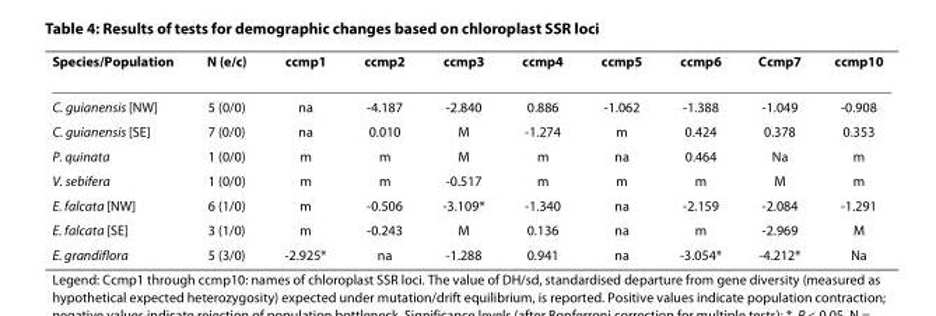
<table><thead><tr><td>Species/Population</td><td>N (e/c)</td><td>ccmp1</td><td>ccmp2</td><td>ccmp3</td><td>ccmp4</td><td>ccmp5</td><td>ccmp6</td><td>Ccmp7</td><td>ccmp10</td></tr></thead><tbody><tr><td>C. guianensis [NW]</td><td>5 (0/0)</td><td>na</td><td>-4.187</td><td>-2.840</td><td>0.886</td><td>-1.062</td><td>-1.388</td><td>-1.049</td><td>-0.908</td></tr><tr><td>C. guianensis [SE]</td><td>7 (0/0)</td><td>na</td><td>0.010</td><td>M</td><td>-1.274</td><td>m</td><td>0.424</td><td>0.378</td><td>0.353</td></tr><tr><td>P. quinata</td><td>1 (0/0)</td><td>m</td><td>m</td><td>M</td><td>m</td><td>na</td><td>0.464</td><td>Na</td><td>m</td></tr><tr><td>V. sebifera</td><td>1 (0/0)</td><td>m</td><td>m</td><td>-0.517</td><td>m</td><td>m</td><td>m</td><td>M</td><td>m</td></tr><tr><td>E. falcata [NW]</td><td>6 (1/0)</td><td>m</td><td>-0.506</td><td>-3.109*</td><td>-1.340</td><td>na</td><td>-2.159</td><td>-2.084</td><td>-1.291</td></tr><tr><td>E. falcata [SE]</td><td>3 (1/0)</td><td>m</td><td>-0.243</td><td>M</td><td>0.136</td><td>na</td><td>m</td><td>-2.969</td><td>M</td></tr><tr><td>E. grandiflora</td><td>5 (3/0)</td><td>-2.925*</td><td>na</td><td>-1.288</td><td>0.941</td><td>na</td><td>-3.054*</td><td>-4.212*</td><td>Na</td></tr></tbody></table>